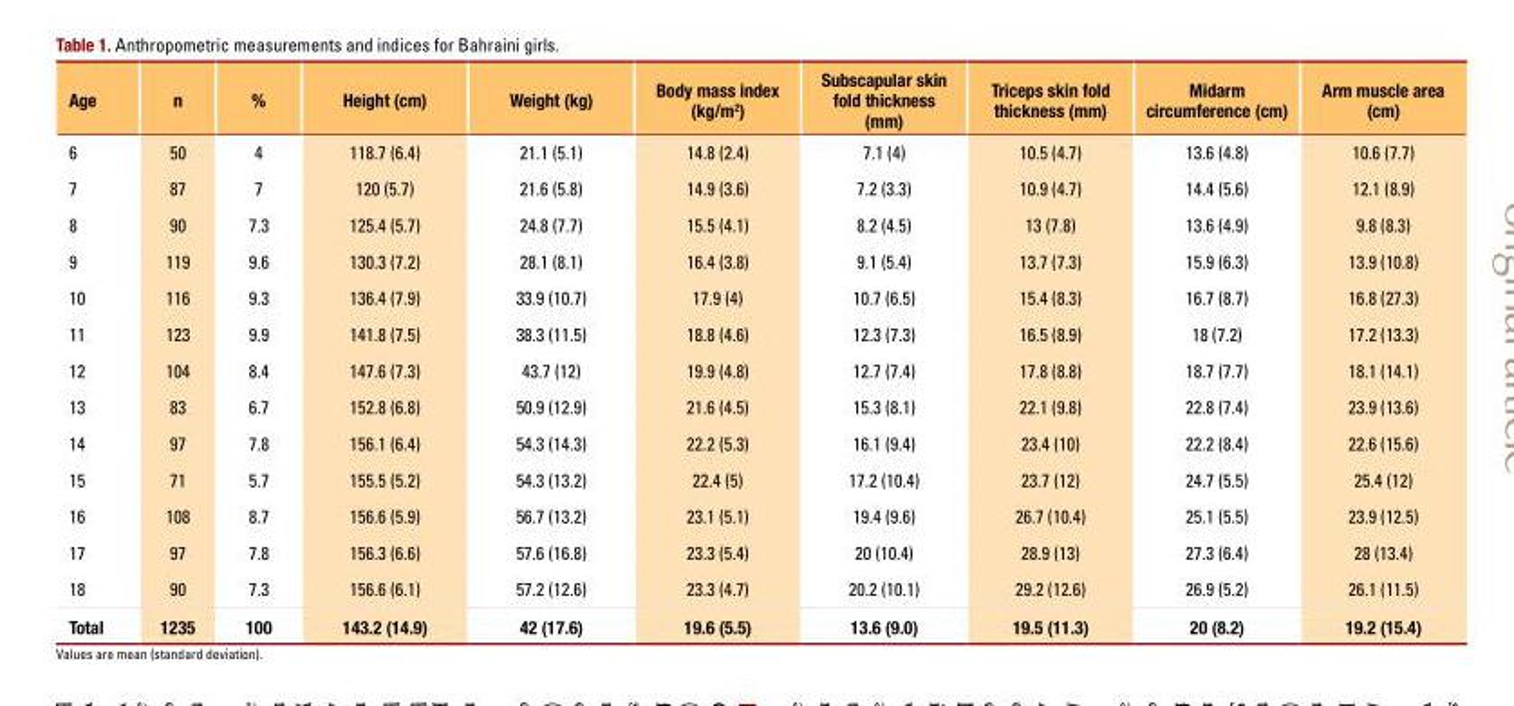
<table><thead><tr><td>Age</td><td>n</td><td>%</td><td>Height (cm)</td><td>Weight (kg)</td><td>Body mass index (kg/m<sup>2</sup>)</td><td>Subscapular skin fold thickness (mm)</td><td>Triceps skin fold thickness (mm)</td><td>Midarm circumference (cm)</td><td>Arm muscle area (cm)</td></tr></thead><tbody><tr><td>6</td><td>50</td><td>4</td><td>118.7 (6.4)</td><td>21.1 (5.1)</td><td>14.8 (2.4)</td><td>7.1 (4)</td><td>10.5 (4.7)</td><td>13.6 (4.8)</td><td>10.6 (7.7)</td></tr><tr><td>7</td><td>87</td><td>7</td><td>120 (5.7)</td><td>21.6 (5.8)</td><td>14.9 (3.6)</td><td>7.2 (3.3)</td><td>10.9 (4.7)</td><td>14.4 (5.6)</td><td>12.1 (8.9)</td></tr><tr><td>8</td><td>90</td><td>7.3</td><td>125.4 (5.7)</td><td>24.8 (7.7)</td><td>15.5 (4.1)</td><td>8.2 (4.5)</td><td>13 (7.8)</td><td>13.6 (4.9)</td><td>9.8 (8.3)</td></tr><tr><td>9</td><td>119</td><td>9.6</td><td>130.3 (7.2)</td><td>28.1 (8.1)</td><td>16.4 (3.8)</td><td>9.1 (5.4)</td><td>13.7 (7.3)</td><td>15.9 (6.3)</td><td>13.9 (10.8)</td></tr><tr><td>10</td><td>116</td><td>9.3</td><td>136.4 (7.9)</td><td>33.9 (10.7)</td><td>17.9 (4)</td><td>10.7 (6.5)</td><td>15.4 (8.3)</td><td>16.7 (8.7)</td><td>16.8 (27.3)</td></tr><tr><td>11</td><td>123</td><td>9.9</td><td>141.8 (7.5)</td><td>38.3 (11.5)</td><td>18.8 (4.6)</td><td>12.3 (7.3)</td><td>16.5 (8.9)</td><td>18 (7.2)</td><td>17.2 (13.3)</td></tr><tr><td>12</td><td>104</td><td>8.4</td><td>147.6 (7.3)</td><td>43.7 (12)</td><td>19.9 (4.8)</td><td>12.7 (7.4)</td><td>17.8 (8.8)</td><td>18.7 (7.7)</td><td>18.1 (14.1)</td></tr><tr><td>13</td><td>83</td><td>6.7</td><td>152.8 (6.8)</td><td>50.9 (12.9)</td><td>21.6 (4.5)</td><td>15.3 (8.1)</td><td>22.1 (9.8)</td><td>22.8 (7.4)</td><td>23.9 (13.6)</td></tr><tr><td>14</td><td>97</td><td>7.8</td><td>156.1 (6.4)</td><td>54.3 (14.3)</td><td>22.2 (5.3)</td><td>16.1 (9.4)</td><td>23.4 (10)</td><td>22.2 (8.4)</td><td>22.6 (15.6)</td></tr><tr><td>15</td><td>71</td><td>5.7</td><td>155.5 (5.2)</td><td>54.3 (13.2)</td><td>22.4 (5)</td><td>17.2 (10.4)</td><td>23.7 (12)</td><td>24.7 (5.5)</td><td>25.4 (12)</td></tr><tr><td>16</td><td>108</td><td>8.7</td><td>156.6 (5.9)</td><td>56.7 (13.2)</td><td>23.1 (5.1)</td><td>19.4 (9.6)</td><td>26.7 (10.4)</td><td>25.1 (5.5)</td><td>23.9 (12.5)</td></tr><tr><td>17</td><td>97</td><td>7.8</td><td>156.3 (6.6)</td><td>57.6 (16.8)</td><td>23.3 (5.4)</td><td>20 (10.4)</td><td>28.9 (13)</td><td>27.3 (6.4)</td><td>28 (13.4)</td></tr><tr><td>18</td><td>90</td><td>7.3</td><td>156.6 (6.1)</td><td>57.2 (12.6)</td><td>23.3 (4.7)</td><td>20.2 (10.1)</td><td>29.2 (12.6)</td><td>26.9 (5.2)</td><td>26.1 (11.5)</td></tr><tr><td>Total</td><td>1235</td><td>100</td><td>143.2 (14.9)</td><td>42 (17.6)</td><td>19.6 (5.5)</td><td>13.6 (9.0)</td><td>19.5 (11.3)</td><td>20 (8.2)</td><td>19.2 (15.4)</td></tr></tbody></table>